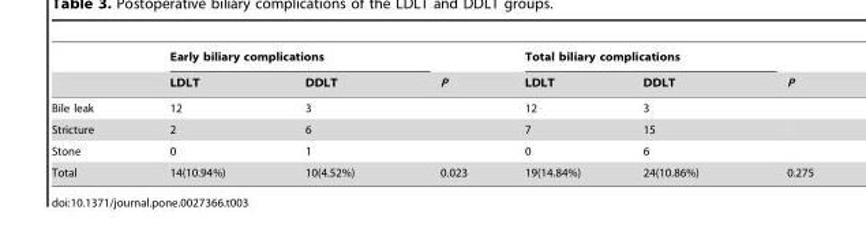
<table><thead><tr><td rowspan="2"></td><td colspan="2">Early biliary complications</td><td rowspan="2">P</td><td colspan="2">Total biliary complications</td><td rowspan="2">P</td></tr><tr><td>LDLT</td><td>DDLT</td><td>LDLT</td><td>DDLT</td></tr></thead><tbody><tr><td>Bile leak</td><td>12</td><td>3</td><td></td><td>12</td><td>3</td><td></td></tr><tr><td>Stricture</td><td>2</td><td>6</td><td></td><td>7</td><td>15</td><td></td></tr><tr><td>Stone</td><td>0</td><td>1</td><td></td><td>0</td><td>6</td><td></td></tr><tr><td>Total</td><td>14(10.94%)</td><td>10(4.52%)</td><td>0.023</td><td>19(14.84%)</td><td>24(10.86%)</td><td>0.275</td></tr></tbody></table>